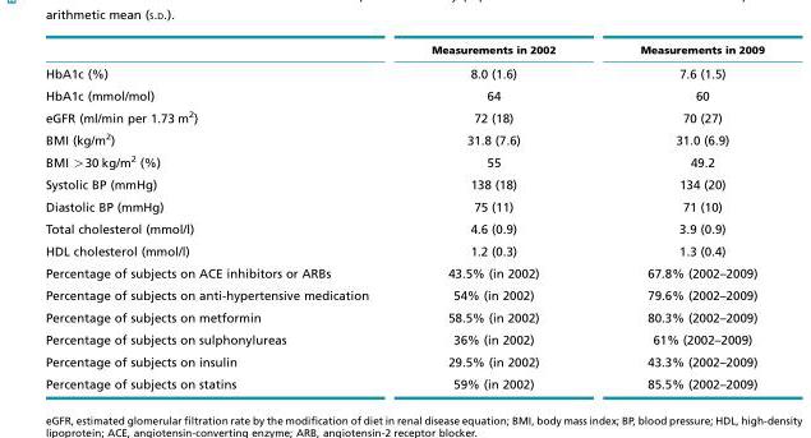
<table><thead><tr><td></td><td>Measurements in 2002</td><td>Measurements in 2009</td></tr></thead><tbody><tr><td>HbA1c (%)</td><td>8.0 (1.6)</td><td>7.6 (1.5)</td></tr><tr><td>HbA1c (mmol/mol)</td><td>64</td><td>60</td></tr><tr><td>eGFR (ml/min per 1.73 m<sup>2</sup>)</td><td>72 (18)</td><td>70 (27)</td></tr><tr><td>BMI (kg/m<sup>2</sup>)</td><td>31.8 (7.6)</td><td>31.0 (6.9)</td></tr><tr><td>BMI &gt;30 kg/m<sup>2</sup> (%)</td><td>55</td><td>49.2</td></tr><tr><td>Systolic BP (mmHg)</td><td>138 (18)</td><td>134 (20)</td></tr><tr><td>Diastolic BP (mmHg)</td><td>75 (11)</td><td>71 (10)</td></tr><tr><td>Total cholesterol (mmol/l)</td><td>4.6 (0.9)</td><td>3.9 (0.9)</td></tr><tr><td>HDL cholesterol (mmol/l)</td><td>1.2 (0.3)</td><td>1.3 (0.4)</td></tr><tr><td>Percentage of subjects on ACE inhibitors or ARBs</td><td>43.5% (in 2002)</td><td>67.8% (2002–2009)</td></tr><tr><td>Percentage of subjects on anti-hypertensive medication</td><td>54% (in 2002)</td><td>79.6% (2002–2009)</td></tr><tr><td>Percentage of subjects on metformin</td><td>58.5% (in 2002)</td><td>80.3% (2002–2009)</td></tr><tr><td>Percentage of subjects on sulphonylureas</td><td>36% (in 2002)</td><td>61% (2002–2009)</td></tr><tr><td>Percentage of subjects on insulin</td><td>29.5% (in 2002)</td><td>43.3% (2002–2009)</td></tr><tr><td>Percentage of subjects on statins</td><td>59% (in 2002)</td><td>85.5% (2002–2009)</td></tr></tbody></table>